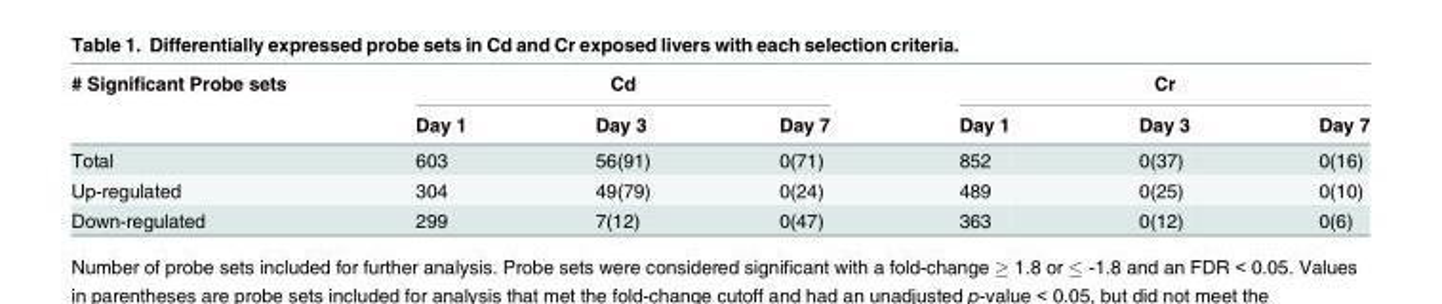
<table><thead><tr><td rowspan="2"># Significant Probe sets</td><td colspan="3">Cd</td><td colspan="3">Cr</td></tr><tr><td>Day 1</td><td>Day 3</td><td>Day 7</td><td>Day 1</td><td>Day 3</td><td>Day 7</td></tr></thead><tbody><tr><td>Total</td><td>603</td><td>56(91)</td><td>0(71)</td><td>852</td><td>0(37)</td><td>0(16)</td></tr><tr><td>Up-regulated</td><td>304</td><td>49(79)</td><td>0(24)</td><td>489</td><td>0(25)</td><td>0(10)</td></tr><tr><td>Down-regulated</td><td>299</td><td>7(12)</td><td>0(47)</td><td>363</td><td>0(12)</td><td>0(6)</td></tr></tbody></table>